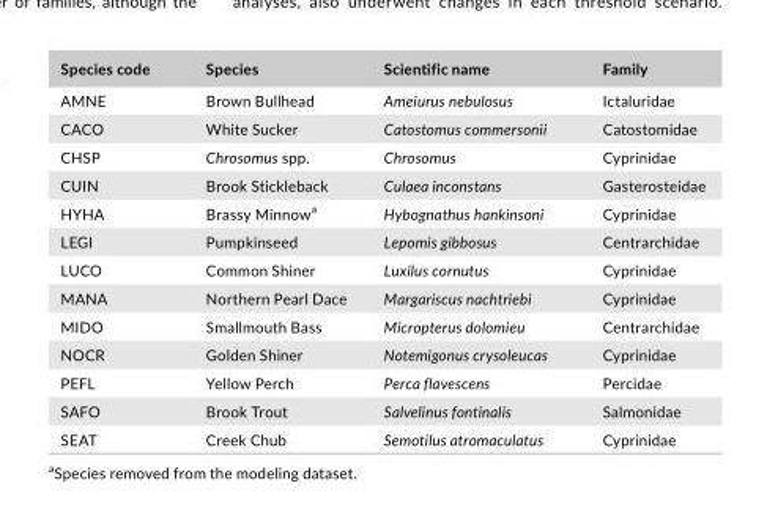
<table><thead><tr><td>Species code</td><td>Species</td><td>Scientific name</td><td>Family</td></tr></thead><tbody><tr><td>AMNE</td><td>Brown Bullhead</td><td>Ameiurus nebulosus</td><td>Ictaluridae</td></tr><tr><td>CACO</td><td>White Sucker</td><td>Catostomus commersonii</td><td>Catostomidae</td></tr><tr><td>CHSP</td><td>Chrosomus spp.</td><td>Chrosomus</td><td>Cyprinidae</td></tr><tr><td>CUIN</td><td>Brook Stickleback</td><td>Culaea inconstans</td><td>Gasterosteidae</td></tr><tr><td>HYHA</td><td>Brassy Minnow<sup>a</sup></td><td>Hybognathus hankinsoni</td><td>Cyprinidae</td></tr><tr><td>LEGI</td><td>Pumpkinseed</td><td>Lepomis gibbosus</td><td>Centrarchidae</td></tr><tr><td>LUCO</td><td>Common Shiner</td><td>Luxilus cornutus</td><td>Cyprinidae</td></tr><tr><td>MANA</td><td>Northern Pearl Dace</td><td>Margariscus nachtriebi</td><td>Cyprinidae</td></tr><tr><td>MIDO</td><td>Smallmouth Bass</td><td>Micropterus dolomieu</td><td>Centrarchidae</td></tr><tr><td>NOCR</td><td>Golden Shiner</td><td>Notemigonus crysoleucas</td><td>Cyprinidae</td></tr><tr><td>PEFL</td><td>Yellow Perch</td><td>Perca flavescens</td><td>Percidae</td></tr><tr><td>SAFO</td><td>Brook Trout</td><td>Salvelinus fontinalis</td><td>Salmonidae</td></tr><tr><td>SEAT</td><td>Creek Chub</td><td>Semotilus atromaculatus</td><td>Cyprinidae</td></tr></tbody></table>